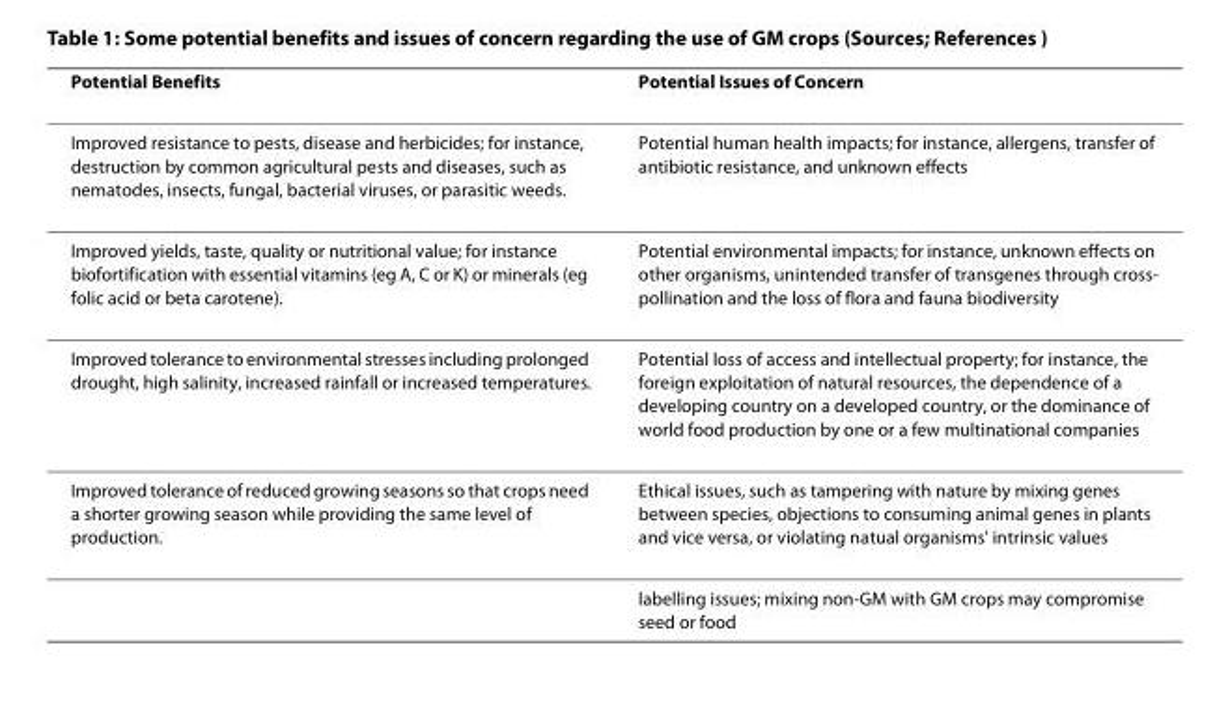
<table><thead><tr><td>Potential Benefits</td><td>Potential Issues of Concern</td></tr></thead><tbody><tr><td>Improved resistance to pests, disease and herbicides; for instance, destruction by common agricultural pests and diseases, such as nematodes, insects, fungal, bacterial viruses, or parasitic weeds.</td><td>Potential human health impacts; for instance, allergens, transfer of antibiotic resistance, and unknown effects</td></tr><tr><td>Improved yields, taste, quality or nutritional value; for instance biofortification with essential vitamins (eg A, C or K) or minerals (eg folic acid or beta carotene).</td><td>Potential environmental impacts; for instance, unknown effects on other organisms, unintended transfer of transgenes through cross- pollination and the loss of flora and fauna biodiversity</td></tr><tr><td>Improved tolerance to environmental stresses including prolonged drought, high salinity, increased rainfall or increased temperatures.</td><td>Potential loss of access and intellectual property; for instance, the foreign exploitation of natural resources, the dependence of a developing country on a developed country, or the dominance of world food production by one or a few multinational companies</td></tr><tr><td rowspan="2">Improved tolerance of reduced growing seasons so that crops need a shorter growing season while providing the same level of production.</td><td>Ethical issues, such as tampering with nature by mixing genes between species, objections to consuming animal genes in plants and vice versa, or violating natual organisms&#x27; intrinsic values</td></tr><tr><td>labelling issues; mixing non-GM with GM crops may compromise seed or food</td></tr></tbody></table>